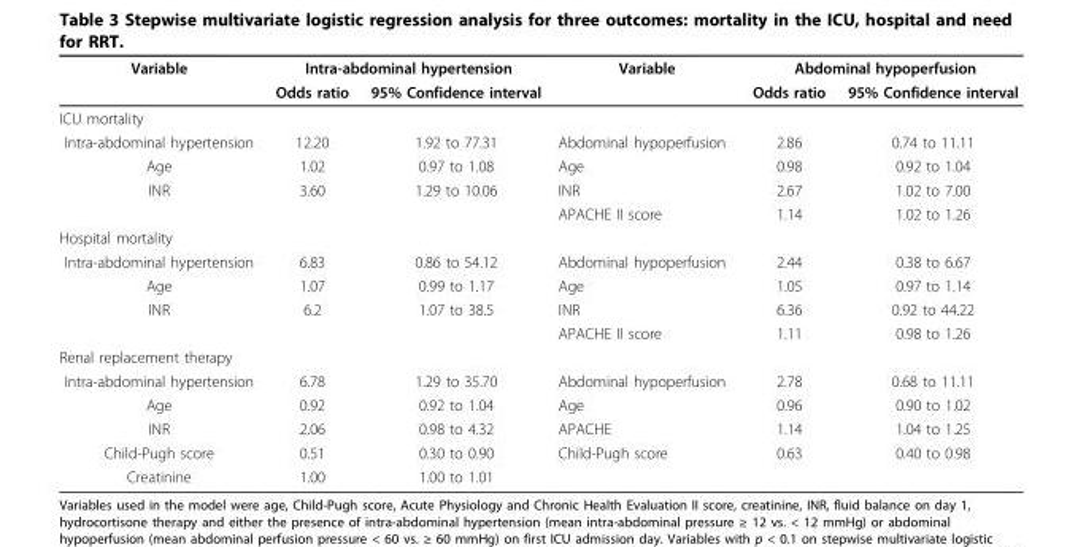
<table><thead><tr><td rowspan="2">Variable</td><td colspan="2">Intra-abdominal hypertension</td><td rowspan="2">Variable</td><td colspan="2">Abdominal hypoperfusion</td></tr><tr><td>Odds ratio</td><td>95% Confidence interval</td><td>Odds ratio</td><td>95% Confidence interval</td></tr></thead><tbody><tr><td colspan="6">ICU mortality</td></tr><tr><td>Intra-abdominal hypertension</td><td>12.20</td><td>1.92 to 77.31</td><td>Abdominal hypoperfusion</td><td>2.86</td><td>0.74 to 11.11</td></tr><tr><td>Age</td><td>1.02</td><td>0.97 to 1.08</td><td>Age</td><td>0.98</td><td>0.92 to 1.04</td></tr><tr><td rowspan="2">INR</td><td>3.60</td><td>1.29 to 10.06</td><td>INR</td><td>2.67</td><td>1.02 to 7.00</td></tr><tr><td></td><td></td><td>APACHE II score</td><td>1.14</td><td>1.02 to 1.26</td></tr><tr><td colspan="6">Hospital mortality</td></tr><tr><td>Intra-abdominal hypertension</td><td>6.83</td><td>0.86 to 54.12</td><td>Abdominal hypoperfusion</td><td>2.44</td><td>0.38 to 6.67</td></tr><tr><td>Age</td><td>1.07</td><td>0.99 to 1.17</td><td>Age</td><td>1.05</td><td>0.97 to 1.14</td></tr><tr><td rowspan="2">INR</td><td>6.2</td><td>1.07 to 38.5</td><td>INR</td><td>6.36</td><td>0.92 to 44.22</td></tr><tr><td></td><td></td><td>APACHE II score</td><td>1.11</td><td>0.98 to 1.26</td></tr><tr><td colspan="6">Renal replacement therapy</td></tr><tr><td>Intra-abdominal hypertension</td><td>6.78</td><td>1.29 to 35.70</td><td>Abdominal hypoperfusion</td><td>2.78</td><td>0.68 to 11.11</td></tr><tr><td>Age</td><td>0.92</td><td>0.92 to 1.04</td><td>Age</td><td>0.96</td><td>0.90 to 1.02</td></tr><tr><td>INR</td><td>2.06</td><td>0.98 to 4.32</td><td>APACHE</td><td>1.14</td><td>1.04 to 1.25</td></tr><tr><td>Child-Pugh score</td><td>0.51</td><td>0.30 to 0.90</td><td>Child-Pugh score</td><td>0.63</td><td>0.40 to 0.98</td></tr><tr><td>Creatinine</td><td>1.00</td><td>1.00 to 1.01</td><td></td><td></td><td></td></tr></tbody></table>